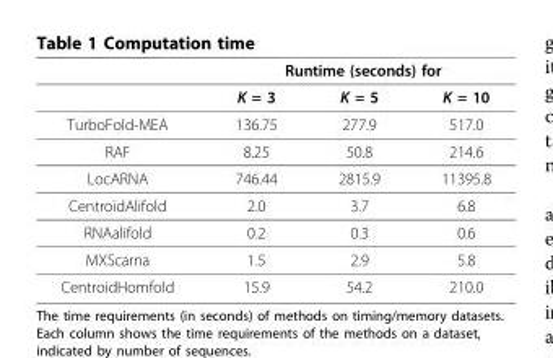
<table><thead><tr><td rowspan="2"></td><td colspan="3">Runtime (seconds) for</td></tr><tr><td>K = 3</td><td>K = 5</td><td>K = 10</td></tr></thead><tbody><tr><td>TurboFold-MEA</td><td>136.75</td><td>277.9</td><td>517.0</td></tr><tr><td>RAF</td><td>8.25</td><td>50.8</td><td>214.6</td></tr><tr><td>LocARNA</td><td>746.44</td><td>2815.9</td><td>11395.8</td></tr><tr><td>CentroidAlifold</td><td>2.0</td><td>3.7</td><td>6.8</td></tr><tr><td>RNAalifold</td><td>0.2</td><td>0.3</td><td>0.6</td></tr><tr><td>MXScarna</td><td>1.5</td><td>2.9</td><td>5.8</td></tr><tr><td>CentroidHomfold</td><td>15.9</td><td>54.2</td><td>210.0</td></tr></tbody></table>